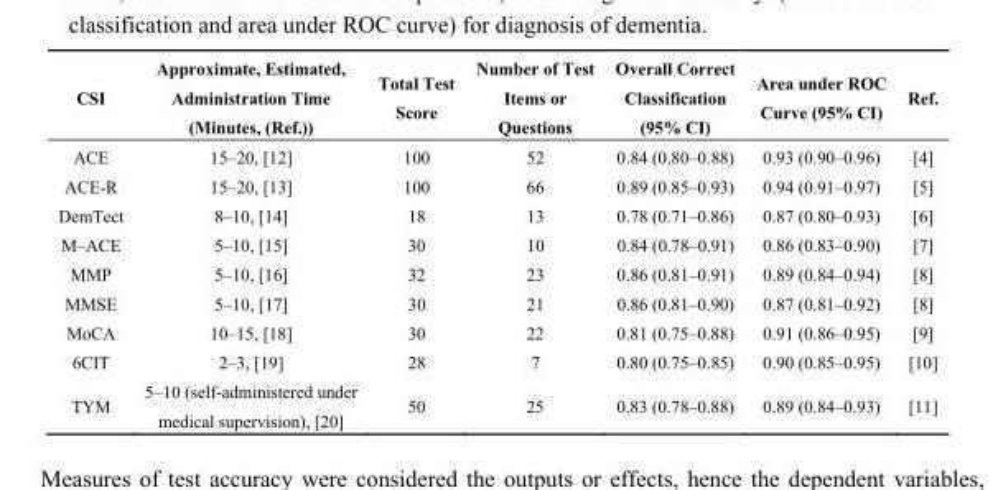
<table><thead><tr><td>CSI</td><td>Approximate, Estimated, Administration Time (Minutes, (Ref.))</td><td>Total Test Score</td><td>Number of Test Items or Questions</td><td>Overall Correct Classification (95% CI)</td><td>Area under ROC Curve (95% CI)</td><td>Ref.</td></tr></thead><tbody><tr><td>ACE</td><td>15–20, [12]</td><td>100</td><td>52</td><td>0.84 (0.80–0.88)</td><td>0.93 (0.90–0.96)</td><td>[4]</td></tr><tr><td>ACE-R</td><td>15–20, [13]</td><td>100</td><td>66</td><td>0.89 (0.85–0.93)</td><td>0.94 (0.91–0.97)</td><td>[5]</td></tr><tr><td>DemTect</td><td>8–10, [14]</td><td>18</td><td>13</td><td>0.78 (0.71–0.86)</td><td>0.87 (0.80–0.93)</td><td>[6]</td></tr><tr><td>M–ACE</td><td>5–10, [15]</td><td>30</td><td>10</td><td>0.84 (0.78–0.91)</td><td>0.86 (0.83–0.90)</td><td>[7]</td></tr><tr><td>MMP</td><td>5–10, [16]</td><td>32</td><td>23</td><td>0.86 (0.81–0.91)</td><td>0.89 (0.84–0.94)</td><td>[8]</td></tr><tr><td>MMSE</td><td>5–10, [17]</td><td>30</td><td>21</td><td>0.86 (0.81–0.90)</td><td>0.87 (0.81–0.92)</td><td>[8]</td></tr><tr><td>MoCA</td><td>10–15, [18]</td><td>30</td><td>22</td><td>0.81 (0.75–0.88)</td><td>0.91 (0.86–0.95)</td><td>[9]</td></tr><tr><td>6CIT</td><td>2–3, [19]</td><td>28</td><td>7</td><td>0.80 (0.75–0.85)</td><td>0.90 (0.85–0.95)</td><td>[10]</td></tr><tr><td>TYM</td><td>5–10 (self-administered under medical supervision), [20]</td><td>50</td><td>25</td><td>0.83 (0.78–0.88)</td><td>0.89 (0.84–0.93)</td><td>[11]</td></tr></tbody></table>